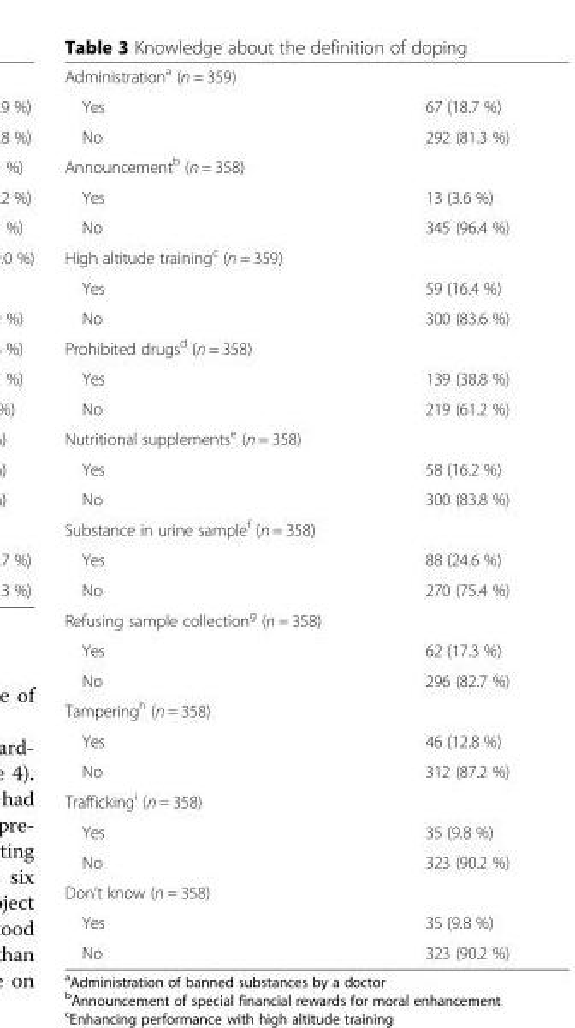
<table><tbody><tr><td colspan="2">Administration<sup>a</sup> (n = 359)</td></tr><tr><td>Yes</td><td>67 (18.7 %)</td></tr><tr><td>No</td><td>292 (81.3 %)</td></tr><tr><td colspan="2">Announcement<sup>b</sup> (n = 358)</td></tr><tr><td>Yes</td><td>13 (3.6 %)</td></tr><tr><td>No</td><td>345 (96.4 %)</td></tr><tr><td colspan="2">High altitude training<sup>c</sup> (n = 359)</td></tr><tr><td>Yes</td><td>59 (16.4 %)</td></tr><tr><td>No</td><td>300 (83.6 %)</td></tr><tr><td colspan="2">Prohibited drugs<sup>d</sup> (n = 358)</td></tr><tr><td>Yes</td><td>139 (38.8 %)</td></tr><tr><td>No</td><td>219 (61.2 %)</td></tr><tr><td colspan="2">Nutritional supplements<sup>e</sup> (n = 358)</td></tr><tr><td>Yes</td><td>58 (16.2 %)</td></tr><tr><td>No</td><td>300 (83.8 %)</td></tr><tr><td colspan="2">Substance in urine sample<sup>f</sup> (n = 358)</td></tr><tr><td>Yes</td><td>88 (24.6 %)</td></tr><tr><td>No</td><td>270 (75.4 %)</td></tr><tr><td colspan="2">Refusing sample collection<sup>g</sup> (n = 358)</td></tr><tr><td>Yes</td><td>62 (17.3 %)</td></tr><tr><td>No</td><td>296 (82.7 %)</td></tr><tr><td colspan="2">Tampering<sup>h</sup> (n = 358)</td></tr><tr><td>Yes</td><td>46 (12.8 %)</td></tr><tr><td>No</td><td>312 (87.2 %)</td></tr><tr><td colspan="2">Trafficking<sup>i</sup> (n = 358)</td></tr><tr><td>Yes</td><td>35 (9.8 %)</td></tr><tr><td>No</td><td>323 (90.2 %)</td></tr><tr><td colspan="2">Don’t know (n = 358)</td></tr><tr><td>Yes</td><td>35 (9.8 %)</td></tr><tr><td>No</td><td>323 (90.2 %)</td></tr></tbody></table>